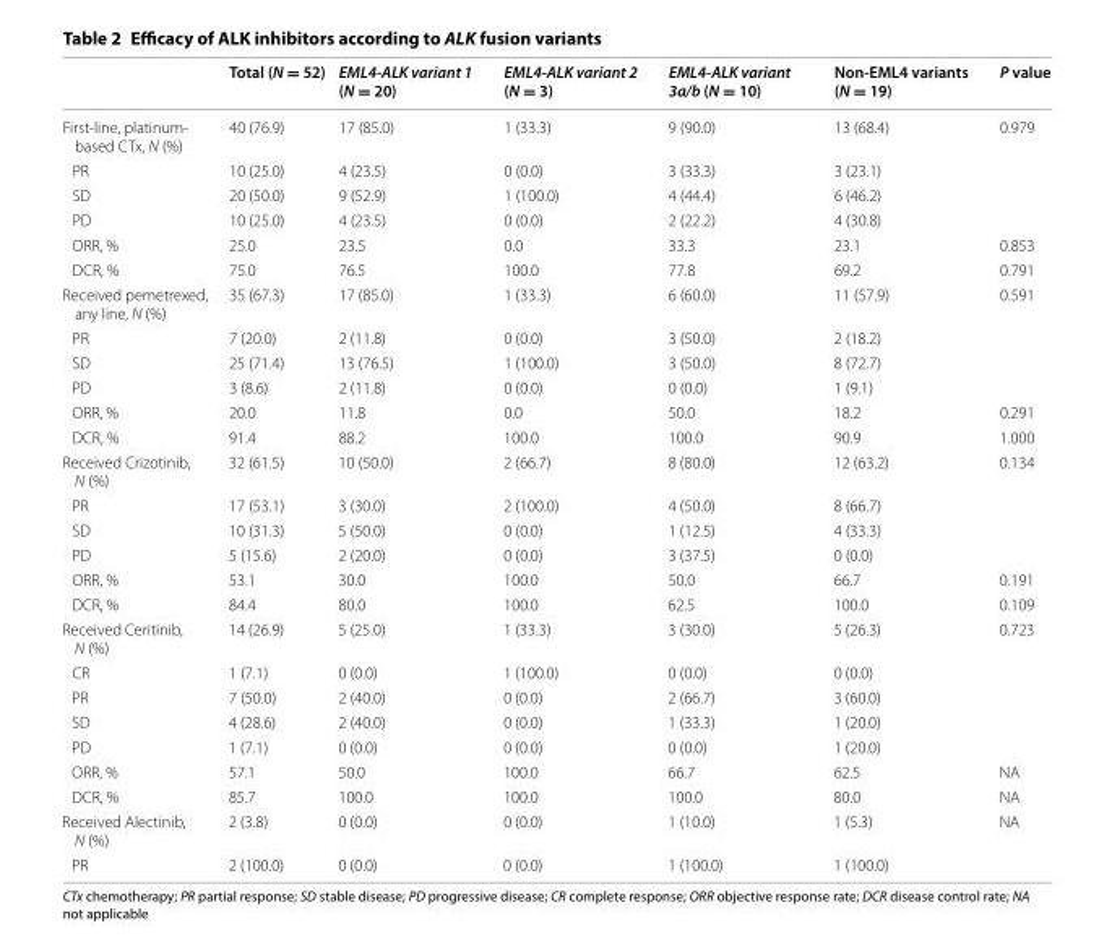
<table><thead><tr><td></td><td>Total (N = 52)</td><td>EML4‑ALK variant 1 (N = 20)</td><td>EML4‑ALK variant 2 (N = 3)</td><td>EML4‑ALK variant 3a/b (N = 10)</td><td>Non‑EML4 variants (N = 19)</td><td>P value</td></tr></thead><tbody><tr><td>First-line, platinum- based CTx, N (%)</td><td>40 (76.9)</td><td>17 (85.0)</td><td>1 (33.3)</td><td>9 (90.0)</td><td>13 (68.4)</td><td>0.979</td></tr><tr><td>PR</td><td>10 (25.0)</td><td>4 (23.5)</td><td>0 (0.0)</td><td>3 (33.3)</td><td>3 (23.1)</td><td></td></tr><tr><td>SD</td><td>20 (50.0)</td><td>9 (52.9)</td><td>1 (100.0)</td><td>4 (44.4)</td><td>6 (46.2)</td><td></td></tr><tr><td>PD</td><td>10 (25.0)</td><td>4 (23.5)</td><td>0 (0.0)</td><td>2 (22.2)</td><td>4 (30.8)</td><td></td></tr><tr><td>ORR, %</td><td>25.0</td><td>23.5</td><td>0.0</td><td>33.3</td><td>23.1</td><td>0.853</td></tr><tr><td>DCR, %</td><td>75.0</td><td>76.5</td><td>100.0</td><td>77.8</td><td>69.2</td><td>0.791</td></tr><tr><td>Received pemetrexed, any line, N (%)</td><td>35 (67.3)</td><td>17 (85.0)</td><td>1 (33.3)</td><td>6 (60.0)</td><td>11 (57.9)</td><td>0.591</td></tr><tr><td>PR</td><td>7 (20.0)</td><td>2 (11.8)</td><td>0 (0.0)</td><td>3 (50.0)</td><td>2 (18.2)</td><td></td></tr><tr><td>SD</td><td>25 (71.4)</td><td>13 (76.5)</td><td>1 (100.0)</td><td>3 (50.0)</td><td>8 (72.7)</td><td></td></tr><tr><td>PD</td><td>3 (8.6)</td><td>2 (11.8)</td><td>0 (0.0)</td><td>0 (0.0)</td><td>1 (9.1)</td><td></td></tr><tr><td>ORR, %</td><td>20.0</td><td>11.8</td><td>0.0</td><td>50.0</td><td>18.2</td><td>0.291</td></tr><tr><td>DCR, %</td><td>91.4</td><td>88.2</td><td>100.0</td><td>100.0</td><td>90.9</td><td>1.000</td></tr><tr><td>Received Crizotinib, N (%)</td><td>32 (61.5)</td><td>10 (50.0)</td><td>2 (66.7)</td><td>8 (80.0)</td><td>12 (63.2)</td><td>0.134</td></tr><tr><td>PR</td><td>17 (53.1)</td><td>3 (30.0)</td><td>2 (100.0)</td><td>4 (50.0)</td><td>8 (66.7)</td><td></td></tr><tr><td>SD</td><td>10 (31.3)</td><td>5 (50.0)</td><td>0 (0.0)</td><td>1 (12.5)</td><td>4 (33.3)</td><td></td></tr><tr><td>PD</td><td>5 (15.6)</td><td>2 (20.0)</td><td>0 (0.0)</td><td>3 (37.5)</td><td>0 (0.0)</td><td></td></tr><tr><td>ORR, %</td><td>53.1</td><td>30.0</td><td>100.0</td><td>50.0</td><td>66.7</td><td>0.191</td></tr><tr><td>DCR, %</td><td>84.4</td><td>80.0</td><td>100.0</td><td>62.5</td><td>100.0</td><td>0.109</td></tr><tr><td>Received Ceritinib, N (%)</td><td>14 (26.9)</td><td>5 (25.0)</td><td>1 (33.3)</td><td>3 (30.0)</td><td>5 (26.3)</td><td>0.723</td></tr><tr><td>CR</td><td>1 (7.1)</td><td>0 (0.0)</td><td>1 (100.0)</td><td>0 (0.0)</td><td>0 (0.0)</td><td></td></tr><tr><td>PR</td><td>7 (50.0)</td><td>2 (40.0)</td><td>0 (0.0)</td><td>2 (66.7)</td><td>3 (60.0)</td><td></td></tr><tr><td>SD</td><td>4 (28.6)</td><td>2 (40.0)</td><td>0 (0.0)</td><td>1 (33.3)</td><td>1 (20.0)</td><td></td></tr><tr><td>PD</td><td>1 (7.1)</td><td>0 (0.0)</td><td>0 (0.0)</td><td>0 (0.0)</td><td>1 (20.0)</td><td></td></tr><tr><td>ORR, %</td><td>57.1</td><td>50.0</td><td>100.0</td><td>66.7</td><td>62.5</td><td>NA</td></tr><tr><td>DCR, %</td><td>85.7</td><td>100.0</td><td>100.0</td><td>100.0</td><td>80.0</td><td>NA</td></tr><tr><td>Received Alectinib, N (%)</td><td>2 (3.8)</td><td>0 (0.0)</td><td>0 (0.0)</td><td>1 (10.0)</td><td>1 (5.3)</td><td>NA</td></tr><tr><td>PR</td><td>2 (100.0)</td><td>0 (0.0)</td><td>0 (0.0)</td><td>1 (100.0)</td><td>1 (100.0)</td><td></td></tr></tbody></table>